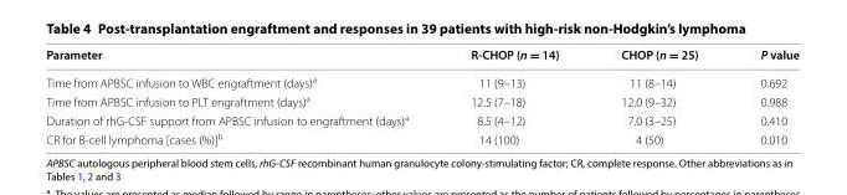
<table><thead><tr><td>Parameter</td><td>R-CHOP (n = 14)</td><td>CHOP (n = 25)</td><td>P value</td></tr></thead><tbody><tr><td>Time from APBSC infusion to WBC engraftment (days)<sup>a</sup></td><td>11 (9–13)</td><td>11 (8–14)</td><td>0.692</td></tr><tr><td>Time from APBSC infusion to PLT engraftment (days)<sup>a</sup></td><td>12.5 (7–18)</td><td>12.0 (9–32)</td><td>0.988</td></tr><tr><td>Duration of rhG-CSF support from APBSC infusion to engraftment (days)<sup>a</sup></td><td>8.5 (4–12)</td><td>7.0 (3–25)</td><td>0.410</td></tr><tr><td>CR for B-cell lymphoma [cases (%)]<sup>b</sup></td><td>14 (100)</td><td>4 (50)</td><td>0.010</td></tr></tbody></table>